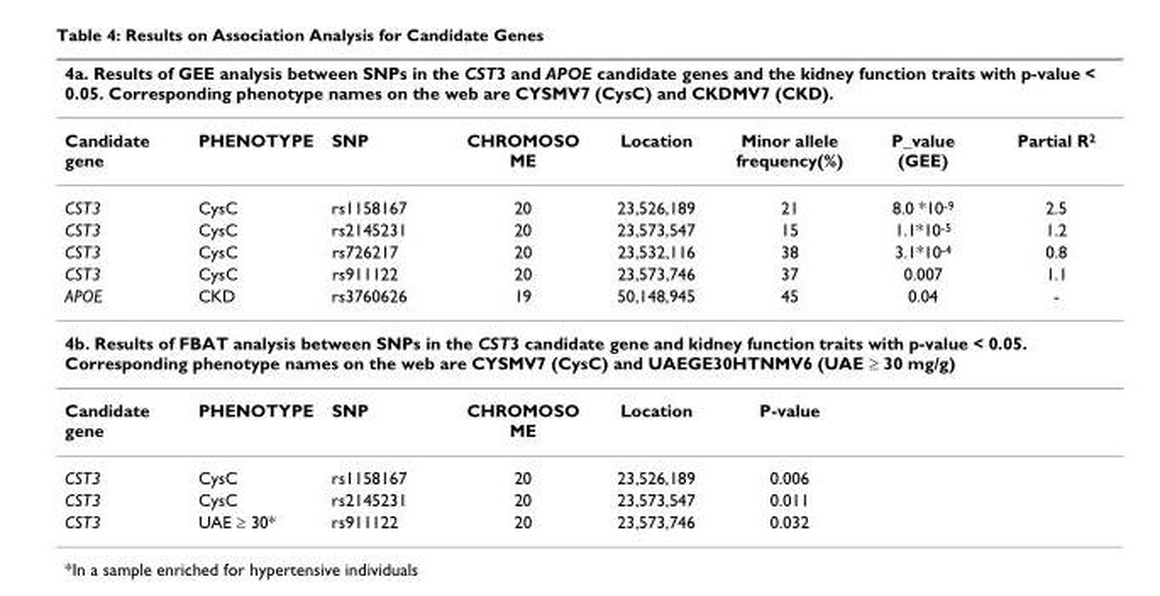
<table><thead><tr><td colspan="8">4a. Results of GEE analysis between SNPs in the CST3 and APOE candidate genes and the kidney function traits with p-value &lt; 0.05. Corresponding phenotype names on the web are CYSMV7 (CysC) and CKDMV7 (CKD).</td></tr><tr><td>Candidate gene</td><td>PHENOTYPE</td><td>SNP</td><td>CHROMOSO ME</td><td>Location</td><td>Minor allele frequency(%)</td><td>P_value (GEE)</td><td>Partial R<sup>2</sup></td></tr></thead><tbody><tr><td>CST3</td><td>CysC</td><td>rs1158167</td><td>20</td><td>23,526,189</td><td>21</td><td>8.0 *10<sup>-9</sup></td><td>2.5</td></tr><tr><td>CST3</td><td>CysC</td><td>rs2145231</td><td>20</td><td>23,573,547</td><td>15</td><td>1.1*10<sup>-5</sup></td><td>1.2</td></tr><tr><td>CST3</td><td>CysC</td><td>rs726217</td><td>20</td><td>23,532,116</td><td>38</td><td>3.1*10<sup>-4</sup></td><td>0.8</td></tr><tr><td>CST3</td><td>CysC</td><td>rs911122</td><td>20</td><td>23,573,746</td><td>37</td><td>0.007</td><td>1.1</td></tr><tr><td>APOE</td><td>CKD</td><td>rs3760626</td><td>19</td><td>50,148,945</td><td>45</td><td>0.04</td><td>-</td></tr><tr><td colspan="8">4b. Results of FBAT analysis between SNPs in the CST3 candidate gene and kidney function traits with p-value &lt; 0.05. Corresponding phenotype names on the web are CYSMV7 (CysC) and UAEGE30HTNMV6 (UAE ≥ 30 mg/g)</td></tr><tr><td>Candidate gene</td><td>PHENOTYPE</td><td>SNP</td><td>CHROMOSO ME</td><td>Location</td><td>P-value</td><td></td><td></td></tr><tr><td>CST3</td><td>CysC</td><td>rs1158167</td><td>20</td><td>23,526,189</td><td>0.006</td><td></td><td></td></tr><tr><td>CST3</td><td>CysC</td><td>rs2145231</td><td>20</td><td>23,573,547</td><td>0.011</td><td></td><td></td></tr><tr><td>CST3</td><td>UAE ≥ 30*</td><td>rs911122</td><td>20</td><td>23,573,746</td><td>0.032</td><td></td><td></td></tr></tbody></table>